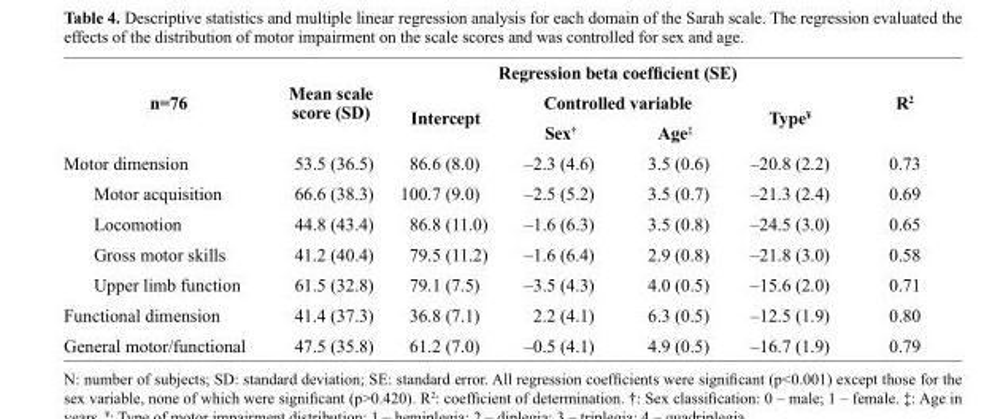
<table><thead><tr><td rowspan="3">n=76</td><td rowspan="3">Mean scale score (SD)</td><td colspan="4">Regression beta coefficient (SE)</td><td rowspan="3">R<sup>2</sup></td></tr><tr><td rowspan="2">Intercept</td><td colspan="2">Controlled variable</td><td rowspan="2">Type<sup>¥</sup></td></tr><tr><td>Sex<sup>†</sup></td><td>Age<sup>‡</sup></td></tr></thead><tbody><tr><td>Motor dimension</td><td>53.5 (36.5)</td><td>86.6 (8.0)</td><td>–2.3 (4.6)</td><td>3.5 (0.6)</td><td>–20.8 (2.2)</td><td>0.73</td></tr><tr><td>Motor acquisition</td><td>66.6 (38.3)</td><td>100.7 (9.0)</td><td>–2.5 (5.2)</td><td>3.5 (0.7)</td><td>–21.3 (2.4)</td><td>0.69</td></tr><tr><td>Locomotion</td><td>44.8 (43.4)</td><td>86.8 (11.0)</td><td>–1.6 (6.3)</td><td>3.5 (0.8)</td><td>–24.5 (3.0)</td><td>0.65</td></tr><tr><td>Gross motor skills</td><td>41.2 (40.4)</td><td>79.5 (11.2)</td><td>–1.6 (6.4)</td><td>2.9 (0.8)</td><td>–21.8 (3.0)</td><td>0.58</td></tr><tr><td>Upper limb function</td><td>61.5 (32.8)</td><td>79.1 (7.5)</td><td>–3.5 (4.3)</td><td>4.0 (0.5)</td><td>–15.6 (2.0)</td><td>0.71</td></tr><tr><td>Functional dimension</td><td>41.4 (37.3)</td><td>36.8 (7.1)</td><td>2.2 (4.1)</td><td>6.3 (0.5)</td><td>–12.5 (1.9)</td><td>0.80</td></tr><tr><td>General motor/functional</td><td>47.5 (35.8)</td><td>61.2 (7.0)</td><td>–0.5 (4.1)</td><td>4.9 (0.5)</td><td>–16.7 (1.9)</td><td>0.79</td></tr></tbody></table>